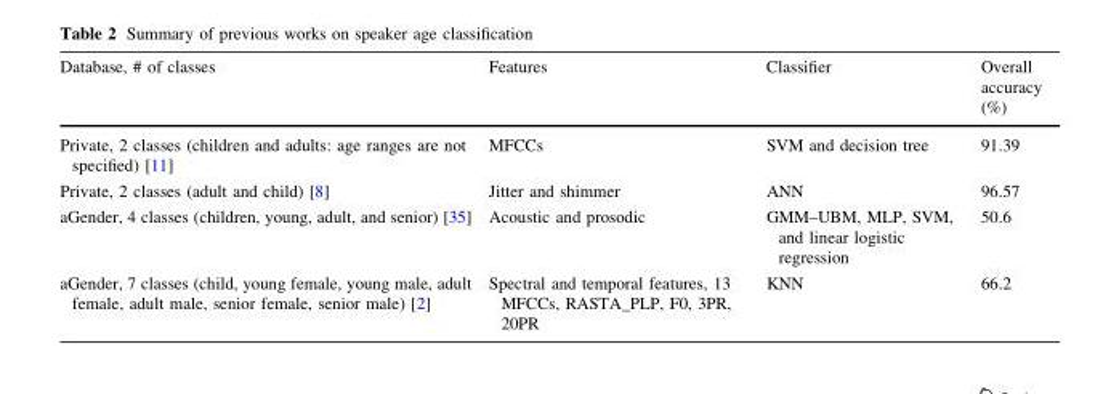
<table><thead><tr><td>Database, # of classes</td><td>Features</td><td>Classifier</td><td>Overall accuracy (%)</td></tr></thead><tbody><tr><td>Private, 2 classes (children and adults: age ranges are not specified) [11]</td><td>MFCCs</td><td>SVM and decision tree</td><td>91.39</td></tr><tr><td>Private, 2 classes (adult and child) [8]</td><td>Jitter and shimmer</td><td>ANN</td><td>96.57</td></tr><tr><td>aGender, 4 classes (children, young, adult, and senior) [35]</td><td>Acoustic and prosodic</td><td>GMM–UBM, MLP, SVM, and linear logistic regression</td><td>50.6</td></tr><tr><td>aGender, 7 classes (child, young female, young male, adult female, adult male, senior female, senior male) [2]</td><td>Spectral and temporal features, 13 MFCCs, RASTA_PLP, F0, 3PR, 20PR</td><td>KNN</td><td>66.2</td></tr></tbody></table>